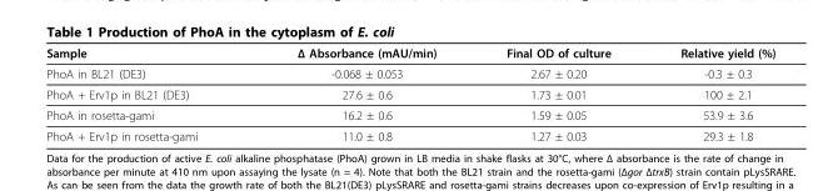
<table><thead><tr><td>Sample</td><td>Δ Absorbance (mAU/min)</td><td>Final OD of culture</td><td>Relative yield (%)</td></tr></thead><tbody><tr><td>PhoA in BL21 (DE3)</td><td>-0.068 ± 0.053</td><td>2.67 ± 0.20</td><td>-0.3 ± 0.3</td></tr><tr><td>PhoA + Erv1p in BL21 (DE3)</td><td>27.6 ± 0.6</td><td>1.73 ± 0.01</td><td>100 ± 2.1</td></tr><tr><td>PhoA in rosetta-gami</td><td>16.2 ± 0.6</td><td>1.59 ± 0.05</td><td>53.9 ± 3.6</td></tr><tr><td>PhoA + Erv1p in rosetta-gami</td><td>11.0 ± 0.8</td><td>1.27 ± 0.03</td><td>29.3 ± 1.8</td></tr></tbody></table>